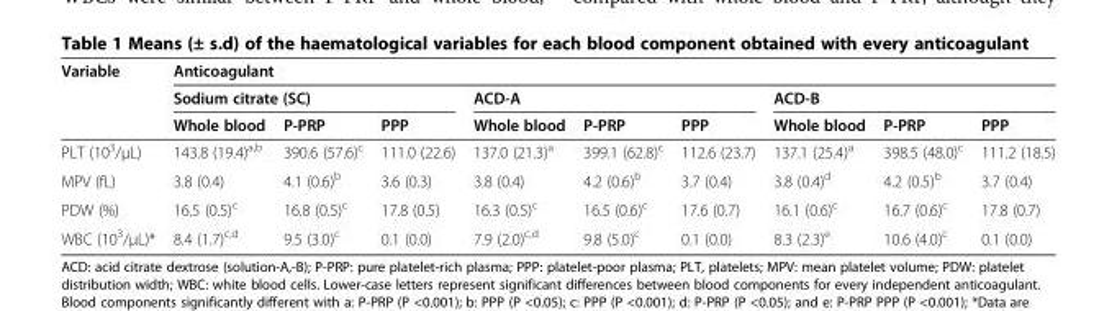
<table><thead><tr><td rowspan="3">Variable</td><td colspan="9">Anticoagulant</td></tr><tr><td colspan="3">Sodium citrate (SC)</td><td colspan="3">ACD-A</td><td colspan="3">ACD-B</td></tr><tr><td>Whole blood</td><td>P-PRP</td><td>PPP</td><td>Whole blood</td><td>P-PRP</td><td>PPP</td><td>Whole blood</td><td>P-PRP</td><td>PPP</td></tr></thead><tbody><tr><td>PLT (10<sup>3</sup>/μL)</td><td>143.8 (19.4)<sup>a,b</sup></td><td>390.6 (57.6)<sup>c</sup></td><td>111.0 (22.6)</td><td>137.0 (21.3)<sup>a</sup></td><td>399.1 (62.8)<sup>c</sup></td><td>112.6 (23.7)</td><td>137.1 (25.4)<sup>a</sup></td><td>398.5 (48.0)<sup>c</sup></td><td>111.2 (18.5)</td></tr><tr><td>MPV (fL)</td><td>3.8 (0.4)</td><td>4.1 (0.6)<sup>b</sup></td><td>3.6 (0.3)</td><td>3.8 (0.4)</td><td>4.2 (0.6)<sup>b</sup></td><td>3.7 (0.4)</td><td>3.8 (0.4)<sup>d</sup></td><td>4.2 (0.5)<sup>b</sup></td><td>3.7 (0.4)</td></tr><tr><td>PDW (%)</td><td>16.5 (0.5)<sup>c</sup></td><td>16.8 (0.5)<sup>c</sup></td><td>17.8 (0.5)</td><td>16.3 (0.5)<sup>c</sup></td><td>16.5 (0.6)<sup>c</sup></td><td>17.6 (0.7)</td><td>16.1 (0.6)<sup>c</sup></td><td>16.7 (0.6)<sup>c</sup></td><td>17.8 (0.7)</td></tr><tr><td>WBC (10<sup>3</sup>/μL)*</td><td>8.4 (1.7)<sup>c,d</sup></td><td>9.5 (3.0)<sup>c</sup></td><td>0.1 (0.0)</td><td>7.9 (2.0)<sup>c,d</sup></td><td>9.8 (5.0)<sup>c</sup></td><td>0.1 (0.0)</td><td>8.3 (2.3)<sup>e</sup></td><td>10.6 (4.0)<sup>c</sup></td><td>0.1 (0.0)</td></tr></tbody></table>